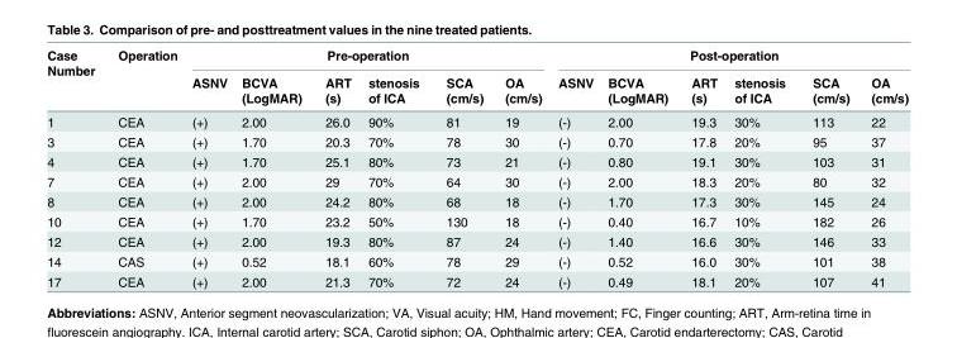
<table><thead><tr><td rowspan="2">Case Number</td><td rowspan="2">Operation</td><td colspan="6">Pre-operation</td><td colspan="6">Post-operation</td></tr><tr><td>ASNV</td><td>BCVA (LogMAR)</td><td>ART (s)</td><td>stenosis of ICA</td><td>SCA (cm/s)</td><td>OA (cm/s)</td><td>ASNV</td><td>BCVA (LogMAR)</td><td>ART (s)</td><td>stenosis of ICA</td><td>SCA (cm/s)</td><td>OA (cm/s)</td></tr></thead><tbody><tr><td>1</td><td>CEA</td><td>(+)</td><td>2.00</td><td>26.0</td><td>90%</td><td>81</td><td>19</td><td>(-)</td><td>2.00</td><td>19.3</td><td>30%</td><td>113</td><td>22</td></tr><tr><td>3</td><td>CEA</td><td>(+)</td><td>1.70</td><td>20.3</td><td>70%</td><td>78</td><td>30</td><td>(-)</td><td>0.70</td><td>17.8</td><td>20%</td><td>95</td><td>37</td></tr><tr><td>4</td><td>CEA</td><td>(+)</td><td>1.70</td><td>25.1</td><td>80%</td><td>73</td><td>21</td><td>(-)</td><td>0.80</td><td>19.1</td><td>30%</td><td>103</td><td>31</td></tr><tr><td>7</td><td>CEA</td><td>(+)</td><td>2.00</td><td>29</td><td>70%</td><td>64</td><td>30</td><td>(-)</td><td>2.00</td><td>18.3</td><td>20%</td><td>80</td><td>32</td></tr><tr><td>8</td><td>CEA</td><td>(+)</td><td>2.00</td><td>24.2</td><td>80%</td><td>68</td><td>18</td><td>(-)</td><td>1.70</td><td>17.3</td><td>30%</td><td>145</td><td>24</td></tr><tr><td>10</td><td>CEA</td><td>(+)</td><td>1.70</td><td>23.2</td><td>50%</td><td>130</td><td>18</td><td>(-)</td><td>0.40</td><td>16.7</td><td>10%</td><td>182</td><td>26</td></tr><tr><td>12</td><td>CEA</td><td>(+)</td><td>2.00</td><td>19.3</td><td>80%</td><td>87</td><td>24</td><td>(-)</td><td>1.40</td><td>16.6</td><td>30%</td><td>146</td><td>33</td></tr><tr><td>14</td><td>CAS</td><td>(+)</td><td>0.52</td><td>18.1</td><td>60%</td><td>78</td><td>29</td><td>(-)</td><td>0.52</td><td>16.0</td><td>30%</td><td>101</td><td>38</td></tr><tr><td>17</td><td>CEA</td><td>(+)</td><td>2.00</td><td>21.3</td><td>70%</td><td>72</td><td>24</td><td>(-)</td><td>0.49</td><td>18.1</td><td>20%</td><td>107</td><td>41</td></tr></tbody></table>